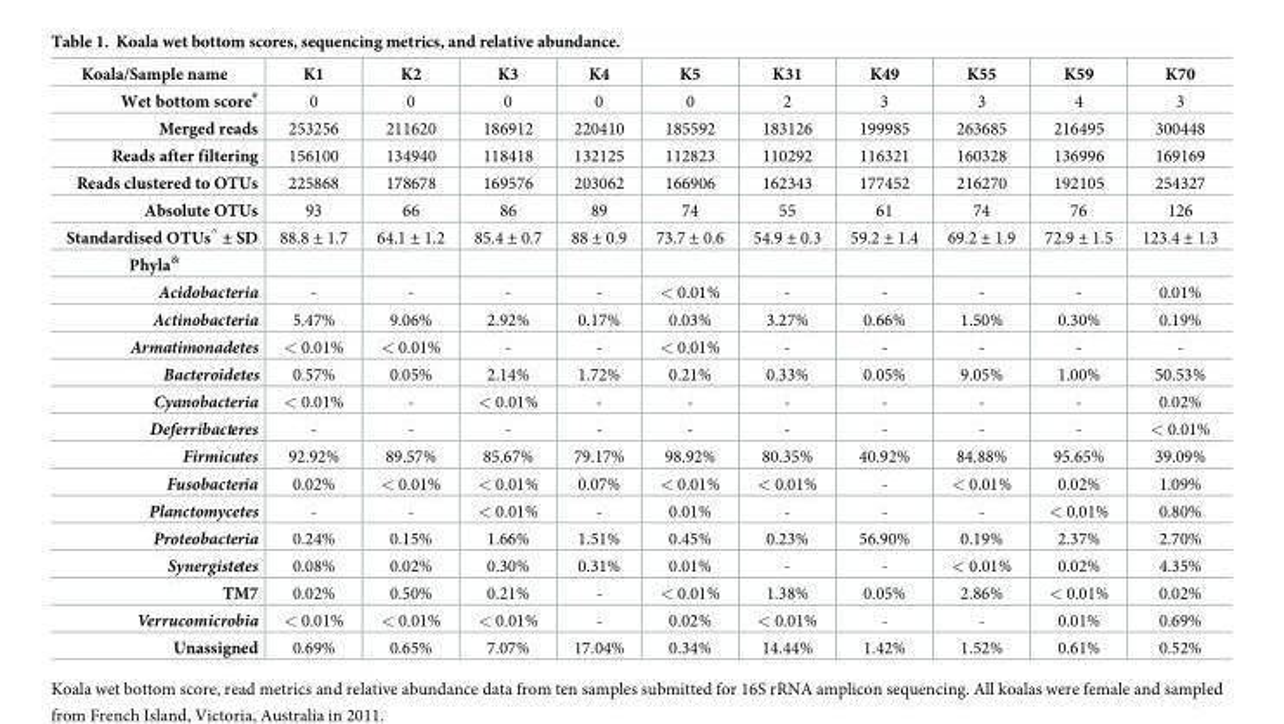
<table><thead><tr><td>Koala/Sample name</td><td>K1</td><td>K2</td><td>K3</td><td>K4</td><td>K5</td><td>K31</td><td>K49</td><td>K55</td><td>K59</td><td>K70</td></tr></thead><tbody><tr><td>Wet bottom score<sup>#</sup></td><td>0</td><td>0</td><td>0</td><td>0</td><td>0</td><td>2</td><td>3</td><td>3</td><td>4</td><td>3</td></tr><tr><td>Merged reads</td><td>253256</td><td>211620</td><td>186912</td><td>220410</td><td>185592</td><td>183126</td><td>199985</td><td>263685</td><td>216495</td><td>300448</td></tr><tr><td>Reads after filtering</td><td>156100</td><td>134940</td><td>118418</td><td>132125</td><td>112823</td><td>110292</td><td>116321</td><td>160328</td><td>136996</td><td>169169</td></tr><tr><td>Reads clustered to OTUs</td><td>225868</td><td>178678</td><td>169576</td><td>203062</td><td>166906</td><td>162343</td><td>177452</td><td>216270</td><td>192105</td><td>254327</td></tr><tr><td>Absolute OTUs</td><td>93</td><td>66</td><td>86</td><td>89</td><td>74</td><td>55</td><td>61</td><td>74</td><td>76</td><td>126</td></tr><tr><td>Standardised OTUs<sup>^</sup> ± SD</td><td>88.8 ± 1.7</td><td>64.1 ± 1.2</td><td>85.4 ± 0.7</td><td>88 ± 0.9</td><td>73.7 ± 0.6</td><td>54.9 ± 0.3</td><td>59.2 ± 1.4</td><td>69.2 ± 1.9</td><td>72.9 ± 1.5</td><td>123.4 ± 1.3</td></tr><tr><td colspan="11">Phyla<sup>&amp;</sup></td></tr><tr><td>Acidobacteria</td><td>-</td><td>-</td><td>-</td><td>-</td><td>&lt; 0.01%</td><td>-</td><td>-</td><td>-</td><td>-</td><td>0.01%</td></tr><tr><td>Actinobacteria</td><td>5.47%</td><td>9.06%</td><td>2.92%</td><td>0.17%</td><td>0.03%</td><td>3.27%</td><td>0.66%</td><td>1.50%</td><td>0.30%</td><td>0.19%</td></tr><tr><td>Armatimonadetes</td><td>&lt; 0.01%</td><td>&lt; 0.01%</td><td>-</td><td>-</td><td>&lt; 0.01%</td><td>-</td><td>-</td><td>-</td><td>-</td><td>-</td></tr><tr><td>Bacteroidetes</td><td>0.57%</td><td>0.05%</td><td>2.14%</td><td>1.72%</td><td>0.21%</td><td>0.33%</td><td>0.05%</td><td>9.05%</td><td>1.00%</td><td>50.53%</td></tr><tr><td>Cyanobacteria</td><td>&lt; 0.01%</td><td>-</td><td>&lt; 0.01%</td><td>-</td><td>-</td><td>-</td><td>-</td><td>-</td><td>-</td><td>0.02%</td></tr><tr><td>Deferribacteres</td><td>-</td><td>-</td><td>-</td><td>-</td><td>-</td><td>-</td><td>-</td><td>-</td><td>-</td><td>&lt; 0.01%</td></tr><tr><td>Firmicutes</td><td>92.92%</td><td>89.57%</td><td>85.67%</td><td>79.17%</td><td>98.92%</td><td>80.35%</td><td>40.92%</td><td>84.88%</td><td>95.65%</td><td>39.09%</td></tr><tr><td>Fusobacteria</td><td>0.02%</td><td>&lt; 0.01%</td><td>&lt; 0.01%</td><td>0.07%</td><td>&lt; 0.01%</td><td>&lt; 0.01%</td><td>-</td><td>&lt; 0.01%</td><td>0.02%</td><td>1.09%</td></tr><tr><td>Planctomycetes</td><td>-</td><td>-</td><td>&lt; 0.01%</td><td>-</td><td>0.01%</td><td>-</td><td>-</td><td>-</td><td>&lt; 0.01%</td><td>0.80%</td></tr><tr><td>Proteobacteria</td><td>0.24%</td><td>0.15%</td><td>1.66%</td><td>1.51%</td><td>0.45%</td><td>0.23%</td><td>56.90%</td><td>0.19%</td><td>2.37%</td><td>2.70%</td></tr><tr><td>Synergistetes</td><td>0.08%</td><td>0.02%</td><td>0.30%</td><td>0.31%</td><td>0.01%</td><td>-</td><td>-</td><td>&lt; 0.01%</td><td>0.02%</td><td>4.35%</td></tr><tr><td>TM7</td><td>0.02%</td><td>0.50%</td><td>0.21%</td><td>-</td><td>&lt; 0.01%</td><td>1.38%</td><td>0.05%</td><td>2.86%</td><td>&lt; 0.01%</td><td>0.02%</td></tr><tr><td>Verrucomicrobia</td><td>&lt; 0.01%</td><td>&lt; 0.01%</td><td>&lt; 0.01%</td><td>-</td><td>0.02%</td><td>&lt; 0.01%</td><td>-</td><td>-</td><td>0.01%</td><td>0.69%</td></tr><tr><td>Unassigned</td><td>0.69%</td><td>0.65%</td><td>7.07%</td><td>17.04%</td><td>0.34%</td><td>14.44%</td><td>1.42%</td><td>1.52%</td><td>0.61%</td><td>0.52%</td></tr></tbody></table>